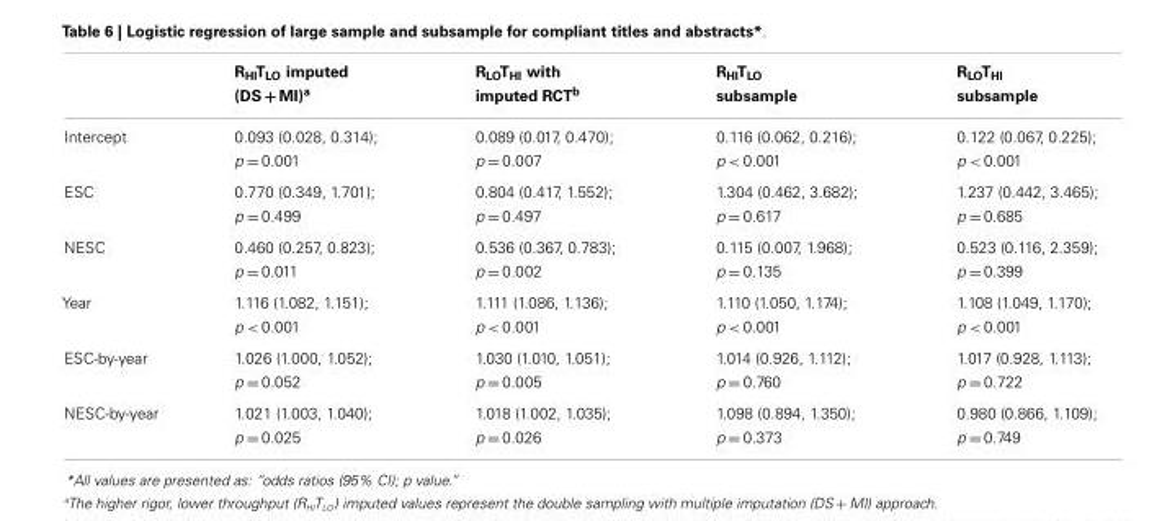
<table><thead><tr><td></td><td>R<sub>HI</sub>T<sub>LO</sub> imputed (DS + MI)<sup>a</sup></td><td>R<sub>LO</sub>T<sub>HI</sub> with imputed RCT<sup>b</sup></td><td>R<sub>HI</sub>T<sub>LO</sub> subsample</td><td>R<sub>LO</sub>T<sub>HI</sub> subsample</td></tr></thead><tbody><tr><td>Intercept</td><td>0.093 (0.028, 0.314); p = 0.001</td><td>0.089 (0.017, 0.470); p = 0.007</td><td>0.116 (0.062, 0.216); p &lt; 0.001</td><td>0.122 (0.067, 0.225); p &lt; 0.001</td></tr><tr><td>ESC</td><td>0.770 (0.349, 1.701); p = 0.499</td><td>0.804 (0.417, 1.552); p = 0.497</td><td>1.304 (0.462, 3.682); p = 0.617</td><td>1.237 (0.442, 3.465); p = 0.685</td></tr><tr><td>NESC</td><td>0.460 (0.257, 0.823); p = 0.011</td><td>0.536 (0.367, 0.783); p = 0.002</td><td>0.115 (0.007, 1.968); p = 0.135</td><td>0.523 (0.116, 2.359); p = 0.399</td></tr><tr><td>Year</td><td>1.116 (1.082, 1.151); p &lt; 0.001</td><td>1.111 (1.086, 1.136); p &lt; 0.001</td><td>1.110 (1.050, 1.174); p &lt; 0.001</td><td>1.108 (1.049, 1.170); p &lt; 0.001</td></tr><tr><td>ESC-by-year</td><td>1.026 (1.000, 1.052); p = 0.052</td><td>1.030 (1.010, 1.051); p = 0.005</td><td>1.014 (0.926, 1.112); p = 0.760</td><td>1.017 (0.928, 1.113); p = 0.722</td></tr><tr><td>NESC-by-year</td><td>1.021 (1.003, 1.040); p = 0.025</td><td>1.018 (1.002, 1.035); p = 0.026</td><td>1.098 (0.894, 1.350); p = 0.373</td><td>0.980 (0.866, 1.109); p = 0.749</td></tr></tbody></table>